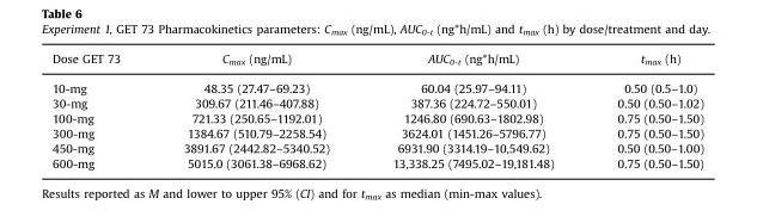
<table><thead><tr><td>Dose GET 73</td><td>C<sub>max</sub> (ng/mL)</td><td>AUC<sub>0-t</sub> (ng*h/mL)</td><td>t<sub>max</sub> (h)</td></tr></thead><tbody><tr><td>10-mg</td><td>48.35 (27.47–69.23)</td><td>60.04 (25.97–94.11)</td><td>0.50 (0.5–1.0)</td></tr><tr><td>30-mg</td><td>309.67 (211.46–407.88)</td><td>387.36 (224.72–550.01)</td><td>0.50 (0.50–1.02)</td></tr><tr><td>100-mg</td><td>721.33 (250.65–1192.01)</td><td>1246.80 (690.63–1802.98)</td><td>0.75 (0.50–1.50)</td></tr><tr><td>300-mg</td><td>1384.67 (510.79–2258.54)</td><td>3624.01 (1451.26–5796.77)</td><td>0.75 (0.50–1.50)</td></tr><tr><td>450-mg</td><td>3891.67 (2442.82–5340.52)</td><td>6931.90 (3314.19–10,549.62)</td><td>0.50 (0.50–1.00)</td></tr><tr><td>600-mg</td><td>5015.0 (3061.38–6968.62)</td><td>13,338.25 (7495.02–19,181.48)</td><td>0.75 (0.50–1.50)</td></tr></tbody></table>